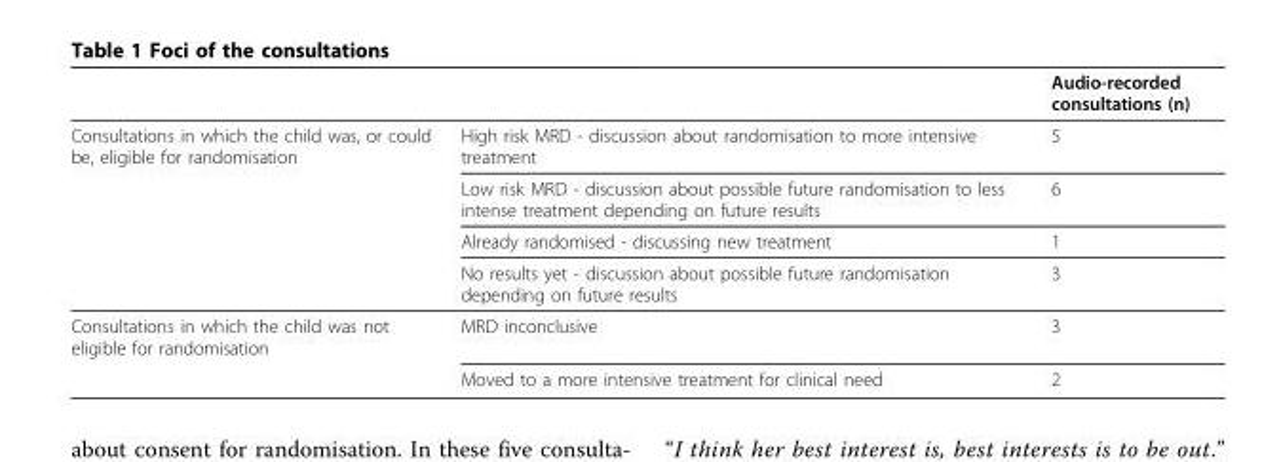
<table><thead><tr><td></td><td></td><td>Audio-recorded consultations (n)</td></tr></thead><tbody><tr><td rowspan="4">Consultations in which the child was, or could be, eligible for randomisation</td><td>High risk MRD - discussion about randomisation to more intensive treatment</td><td>5</td></tr><tr><td>Low risk MRD - discussion about possible future randomisation to less intense treatment depending on future results</td><td>6</td></tr><tr><td>Already randomised - discussing new treatment</td><td>1</td></tr><tr><td>No results yet - discussion about possible future randomisation depending on future results</td><td>3</td></tr><tr><td rowspan="2">Consultations in which the child was not eligible for randomisation</td><td>MRD inconclusive</td><td>3</td></tr><tr><td>Moved to a more intensive treatment for clinical need</td><td>2</td></tr></tbody></table>